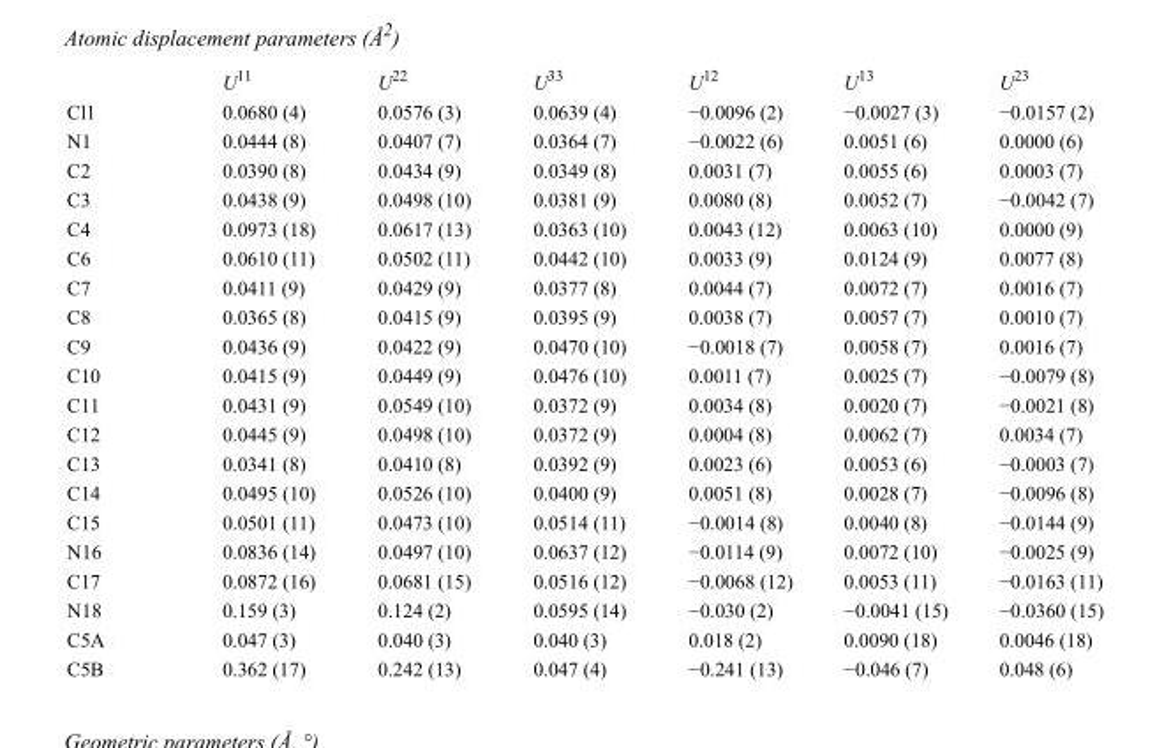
<table><thead><tr><td></td><td>U<sup>11</sup></td><td>U<sup>22</sup></td><td>U<sup>33</sup></td><td>U<sup>12</sup></td><td>U<sup>13</sup></td><td>U<sup>23</sup></td></tr></thead><tbody><tr><td>Cl1</td><td>0.0680 (4)</td><td>0.0576 (3)</td><td>0.0639 (4)</td><td>−0.0096 (2)</td><td>−0.0027 (3)</td><td>−0.0157 (2)</td></tr><tr><td>N1</td><td>0.0444 (8)</td><td>0.0407 (7)</td><td>0.0364 (7)</td><td>−0.0022 (6)</td><td>0.0051 (6)</td><td>0.0000 (6)</td></tr><tr><td>C2</td><td>0.0390 (8)</td><td>0.0434 (9)</td><td>0.0349 (8)</td><td>0.0031 (7)</td><td>0.0055 (6)</td><td>0.0003 (7)</td></tr><tr><td>C3</td><td>0.0438 (9)</td><td>0.0498 (10)</td><td>0.0381 (9)</td><td>0.0080 (8)</td><td>0.0052 (7)</td><td>−0.0042 (7)</td></tr><tr><td>C4</td><td>0.0973 (18)</td><td>0.0617 (13)</td><td>0.0363 (10)</td><td>0.0043 (12)</td><td>0.0063 (10)</td><td>0.0000 (9)</td></tr><tr><td>C6</td><td>0.0610 (11)</td><td>0.0502 (11)</td><td>0.0442 (10)</td><td>0.0033 (9)</td><td>0.0124 (9)</td><td>0.0077 (8)</td></tr><tr><td>C7</td><td>0.0411 (9)</td><td>0.0429 (9)</td><td>0.0377 (8)</td><td>0.0044 (7)</td><td>0.0072 (7)</td><td>0.0016 (7)</td></tr><tr><td>C8</td><td>0.0365 (8)</td><td>0.0415 (9)</td><td>0.0395 (9)</td><td>0.0038 (7)</td><td>0.0057 (7)</td><td>0.0010 (7)</td></tr><tr><td>C9</td><td>0.0436 (9)</td><td>0.0422 (9)</td><td>0.0470 (10)</td><td>−0.0018 (7)</td><td>0.0058 (7)</td><td>0.0016 (7)</td></tr><tr><td>C10</td><td>0.0415 (9)</td><td>0.0449 (9)</td><td>0.0476 (10)</td><td>0.0011 (7)</td><td>0.0025 (7)</td><td>−0.0079 (8)</td></tr><tr><td>C11</td><td>0.0431 (9)</td><td>0.0549 (10)</td><td>0.0372 (9)</td><td>0.0034 (8)</td><td>0.0020 (7)</td><td>−0.0021 (8)</td></tr><tr><td>C12</td><td>0.0445 (9)</td><td>0.0498 (10)</td><td>0.0372 (9)</td><td>0.0004 (8)</td><td>0.0062 (7)</td><td>0.0034 (7)</td></tr><tr><td>C13</td><td>0.0341 (8)</td><td>0.0410 (8)</td><td>0.0392 (9)</td><td>0.0023 (6)</td><td>0.0053 (6)</td><td>−0.0003 (7)</td></tr><tr><td>C14</td><td>0.0495 (10)</td><td>0.0526 (10)</td><td>0.0400 (9)</td><td>0.0051 (8)</td><td>0.0028 (7)</td><td>−0.0096 (8)</td></tr><tr><td>C15</td><td>0.0501 (11)</td><td>0.0473 (10)</td><td>0.0514 (11)</td><td>−0.0014 (8)</td><td>0.0040 (8)</td><td>−0.0144 (9)</td></tr><tr><td>N16</td><td>0.0836 (14)</td><td>0.0497 (10)</td><td>0.0637 (12)</td><td>−0.0114 (9)</td><td>0.0072 (10)</td><td>−0.0025 (9)</td></tr><tr><td>C17</td><td>0.0872 (16)</td><td>0.0681 (15)</td><td>0.0516 (12)</td><td>−0.0068 (12)</td><td>0.0053 (11)</td><td>−0.0163 (11)</td></tr><tr><td>N18</td><td>0.159 (3)</td><td>0.124 (2)</td><td>0.0595 (14)</td><td>−0.030 (2)</td><td>−0.0041 (15)</td><td>−0.0360 (15)</td></tr><tr><td>C5A</td><td>0.047 (3)</td><td>0.040 (3)</td><td>0.040 (3)</td><td>0.018 (2)</td><td>0.0090 (18)</td><td>0.0046 (18)</td></tr><tr><td>C5B</td><td>0.362 (17)</td><td>0.242 (13)</td><td>0.047 (4)</td><td>−0.241 (13)</td><td>−0.046 (7)</td><td>0.048 (6)</td></tr></tbody></table>